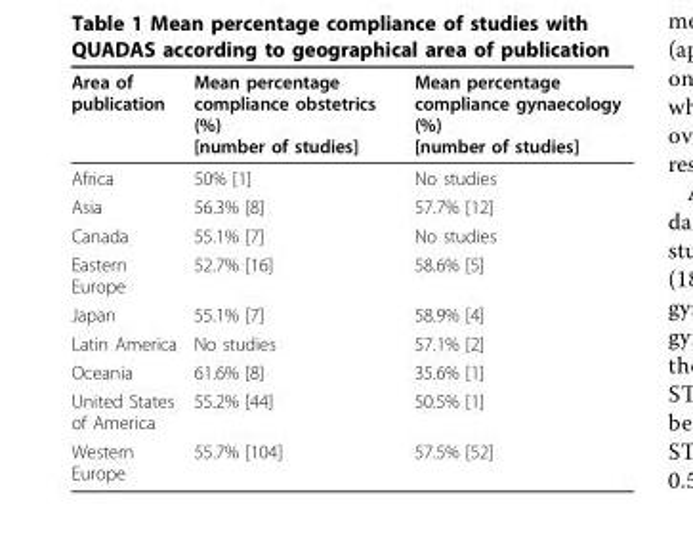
<table><thead><tr><td>Area of publication</td><td>Mean percentage compliance obstetrics (%) [number of studies]</td><td>Mean percentage compliance gynaecology (%) [number of studies]</td></tr></thead><tbody><tr><td>Africa</td><td>50% [1]</td><td>No studies</td></tr><tr><td>Asia</td><td>56.3% [8]</td><td>57.7% [12]</td></tr><tr><td>Canada</td><td>55.1% [7]</td><td>No studies</td></tr><tr><td>Eastern Europe</td><td>52.7% [16]</td><td>58.6% [5]</td></tr><tr><td>Japan</td><td>55.1% [7]</td><td>58.9% [4]</td></tr><tr><td>Latin America</td><td>No studies</td><td>57.1% [2]</td></tr><tr><td>Oceania</td><td>61.6% [8]</td><td>35.6% [1]</td></tr><tr><td>United States of America</td><td>55.2% [44]</td><td>50.5% [1]</td></tr><tr><td>Western Europe</td><td>55.7% [104]</td><td>57.5% [52]</td></tr></tbody></table>